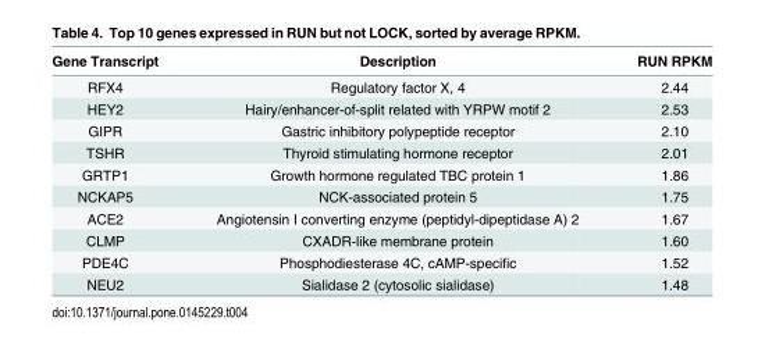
<table><thead><tr><td>Gene Transcript</td><td>Description</td><td>RUN RPKM</td></tr></thead><tbody><tr><td>RFX4</td><td>Regulatory factor X, 4</td><td>2.44</td></tr><tr><td>HEY2</td><td>Hairy/enhancer-of-split related with YRPW motif 2</td><td>2.53</td></tr><tr><td>GIPR</td><td>Gastric inhibitory polypeptide receptor</td><td>2.10</td></tr><tr><td>TSHR</td><td>Thyroid stimulating hormone receptor</td><td>2.01</td></tr><tr><td>GRTP1</td><td>Growth hormone regulated TBC protein 1</td><td>1.86</td></tr><tr><td>NCKAP5</td><td>NCK-associated protein 5</td><td>1.75</td></tr><tr><td>ACE2</td><td>Angiotensin I converting enzyme (peptidyl-dipeptidase A) 2</td><td>1.67</td></tr><tr><td>CLMP</td><td>CXADR-like membrane protein</td><td>1.60</td></tr><tr><td>PDE4C</td><td>Phosphodiesterase 4C, cAMP-specific</td><td>1.52</td></tr><tr><td>NEU2</td><td>Sialidase 2 (cytosolic sialidase)</td><td>1.48</td></tr></tbody></table>